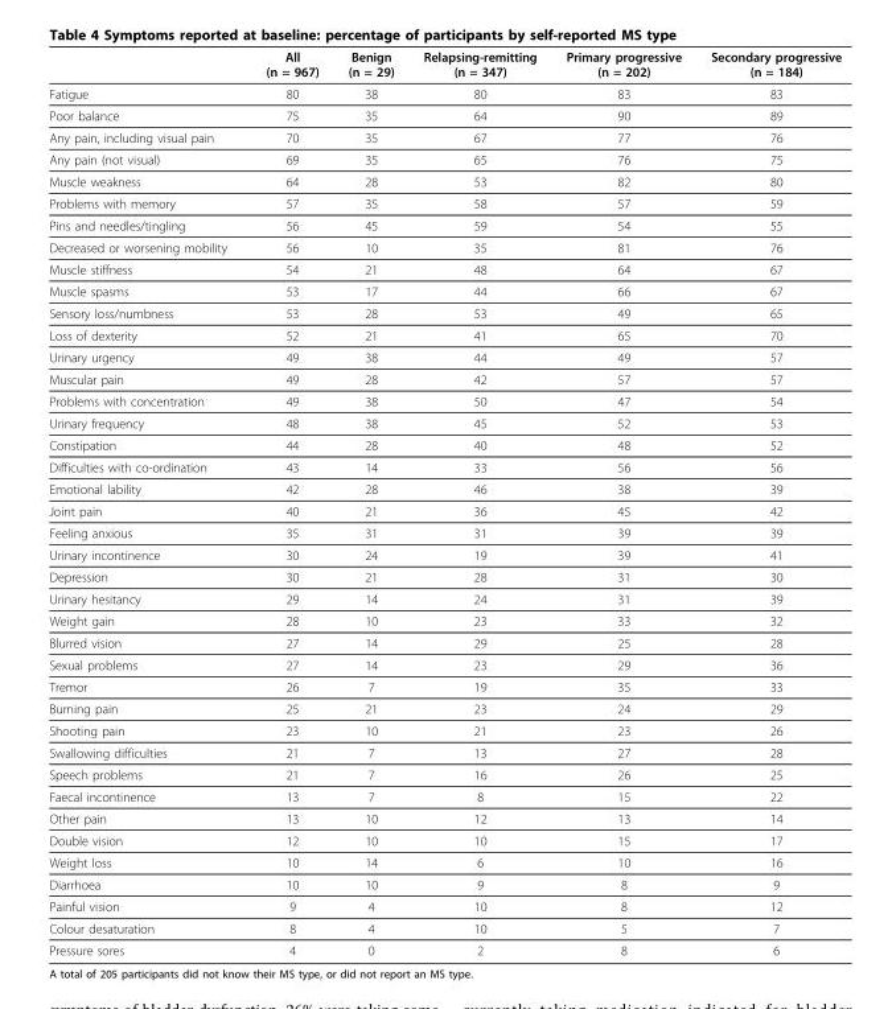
<table><thead><tr><td></td><td>All (n = 967)</td><td>Benign (n = 29)</td><td>Relapsing-remitting (n = 347)</td><td>Primary progressive (n = 202)</td><td>Secondary progressive (n = 184)</td></tr></thead><tbody><tr><td>Fatigue</td><td>80</td><td>38</td><td>80</td><td>83</td><td>83</td></tr><tr><td>Poor balance</td><td>75</td><td>35</td><td>64</td><td>90</td><td>89</td></tr><tr><td>Any pain, including visual pain</td><td>70</td><td>35</td><td>67</td><td>77</td><td>76</td></tr><tr><td>Any pain (not visual)</td><td>69</td><td>35</td><td>65</td><td>76</td><td>75</td></tr><tr><td>Muscle weakness</td><td>64</td><td>28</td><td>53</td><td>82</td><td>80</td></tr><tr><td>Problems with memory</td><td>57</td><td>35</td><td>58</td><td>57</td><td>59</td></tr><tr><td>Pins and needles/tingling</td><td>56</td><td>45</td><td>59</td><td>54</td><td>55</td></tr><tr><td>Decreased or worsening mobility</td><td>56</td><td>10</td><td>35</td><td>81</td><td>76</td></tr><tr><td>Muscle stiffness</td><td>54</td><td>21</td><td>48</td><td>64</td><td>67</td></tr><tr><td>Muscle spasms</td><td>53</td><td>17</td><td>44</td><td>66</td><td>67</td></tr><tr><td>Sensory loss/numbness</td><td>53</td><td>28</td><td>53</td><td>49</td><td>65</td></tr><tr><td>Loss of dexterity</td><td>52</td><td>21</td><td>41</td><td>65</td><td>70</td></tr><tr><td>Urinary urgency</td><td>49</td><td>38</td><td>44</td><td>49</td><td>57</td></tr><tr><td>Muscular pain</td><td>49</td><td>28</td><td>42</td><td>57</td><td>57</td></tr><tr><td>Problems with concentration</td><td>49</td><td>38</td><td>50</td><td>47</td><td>54</td></tr><tr><td>Urinary frequency</td><td>48</td><td>38</td><td>45</td><td>52</td><td>53</td></tr><tr><td>Constipation</td><td>44</td><td>28</td><td>40</td><td>48</td><td>52</td></tr><tr><td>Difficulties with co-ordination</td><td>43</td><td>14</td><td>33</td><td>56</td><td>56</td></tr><tr><td>Emotional lability</td><td>42</td><td>28</td><td>46</td><td>38</td><td>39</td></tr><tr><td>Joint pain</td><td>40</td><td>21</td><td>36</td><td>45</td><td>42</td></tr><tr><td>Feeling anxious</td><td>35</td><td>31</td><td>31</td><td>39</td><td>39</td></tr><tr><td>Urinary incontinence</td><td>30</td><td>24</td><td>19</td><td>39</td><td>41</td></tr><tr><td>Depression</td><td>30</td><td>21</td><td>28</td><td>31</td><td>30</td></tr><tr><td>Urinary hesitancy</td><td>29</td><td>14</td><td>24</td><td>31</td><td>39</td></tr><tr><td>Weight gain</td><td>28</td><td>10</td><td>23</td><td>33</td><td>32</td></tr><tr><td>Blurred vision</td><td>27</td><td>14</td><td>29</td><td>25</td><td>28</td></tr><tr><td>Sexual problems</td><td>27</td><td>14</td><td>23</td><td>29</td><td>36</td></tr><tr><td>Tremor</td><td>26</td><td>7</td><td>19</td><td>35</td><td>33</td></tr><tr><td>Burning pain</td><td>25</td><td>21</td><td>23</td><td>24</td><td>29</td></tr><tr><td>Shooting pain</td><td>23</td><td>10</td><td>21</td><td>23</td><td>26</td></tr><tr><td>Swallowing difficulties</td><td>21</td><td>7</td><td>13</td><td>27</td><td>28</td></tr><tr><td>Speech problems</td><td>21</td><td>7</td><td>16</td><td>26</td><td>25</td></tr><tr><td>Faecal incontinence</td><td>13</td><td>7</td><td>8</td><td>15</td><td>22</td></tr><tr><td>Other pain</td><td>13</td><td>10</td><td>12</td><td>13</td><td>14</td></tr><tr><td>Double vision</td><td>12</td><td>10</td><td>10</td><td>15</td><td>17</td></tr><tr><td>Weight loss</td><td>10</td><td>14</td><td>6</td><td>10</td><td>16</td></tr><tr><td>Diarrhoea</td><td>10</td><td>10</td><td>9</td><td>8</td><td>9</td></tr><tr><td>Painful vision</td><td>9</td><td>4</td><td>10</td><td>8</td><td>12</td></tr><tr><td>Colour desaturation</td><td>8</td><td>4</td><td>10</td><td>5</td><td>7</td></tr><tr><td>Pressure sores</td><td>4</td><td>0</td><td>2</td><td>8</td><td>6</td></tr></tbody></table>